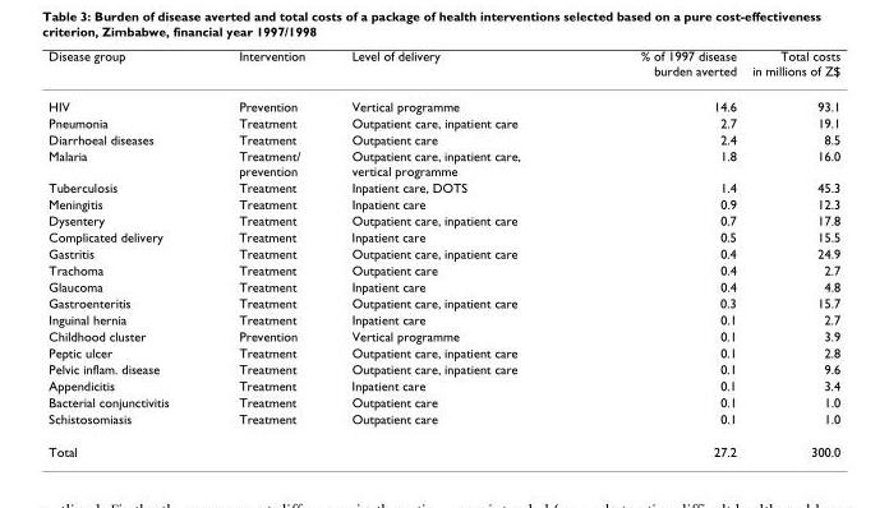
<table><thead><tr><td>Disease group</td><td>Intervention</td><td>Level of delivery</td><td>% of 1997 disease burden averted</td><td>Total costs in millions of Z$</td></tr></thead><tbody><tr><td>HIV</td><td>Prevention</td><td>Vertical programme</td><td>14.6</td><td>93.1</td></tr><tr><td>Pneumonia</td><td>Treatment</td><td>Outpatient care, inpatient care</td><td>2.7</td><td>19.1</td></tr><tr><td>Diarrhoeal diseases</td><td>Treatment</td><td>Outpatient care</td><td>2.4</td><td>8.5</td></tr><tr><td>Malaria</td><td>Treatment/ prevention</td><td>Outpatient care, inpatient care, vertical programme</td><td>1.8</td><td>16.0</td></tr><tr><td>Tuberculosis</td><td>Treatment</td><td>Inpatient care, DOTS</td><td>1.4</td><td>45.3</td></tr><tr><td>Meningitis</td><td>Treatment</td><td>Inpatient care</td><td>0.9</td><td>12.3</td></tr><tr><td>Dysentery</td><td>Treatment</td><td>Outpatient care, inpatient care</td><td>0.7</td><td>17.8</td></tr><tr><td>Complicated delivery</td><td>Treatment</td><td>Inpatient care</td><td>0.5</td><td>15.5</td></tr><tr><td>Gastritis</td><td>Treatment</td><td>Outpatient care, inpatient care</td><td>0.4</td><td>24.9</td></tr><tr><td>Trachoma</td><td>Treatment</td><td>Outpatient care</td><td>0.4</td><td>2.7</td></tr><tr><td>Glaucoma</td><td>Treatment</td><td>Inpatient care</td><td>0.4</td><td>4.8</td></tr><tr><td>Gastroenteritis</td><td>Treatment</td><td>Outpatient care, inpatient care</td><td>0.3</td><td>15.7</td></tr><tr><td>Inguinal hernia</td><td>Treatment</td><td>Inpatient care</td><td>0.1</td><td>2.7</td></tr><tr><td>Childhood cluster</td><td>Prevention</td><td>Vertical programme</td><td>0.1</td><td>3.9</td></tr><tr><td>Peptic ulcer</td><td>Treatment</td><td>Outpatient care, inpatient care</td><td>0.1</td><td>2.8</td></tr><tr><td>Pelvic inflam. disease</td><td>Treatment</td><td>Outpatient care, inpatient care</td><td>0.1</td><td>9.6</td></tr><tr><td>Appendicitis</td><td>Treatment</td><td>Inpatient care</td><td>0.1</td><td>3.4</td></tr><tr><td>Bacterial conjunctivitis</td><td>Treatment</td><td>Outpatient care</td><td>0.1</td><td>1.0</td></tr><tr><td>Schistosomiasis</td><td>Treatment</td><td>Outpatient care</td><td>0.1</td><td>1.0</td></tr><tr><td>Total</td><td></td><td></td><td>27.2</td><td>300.0</td></tr></tbody></table>